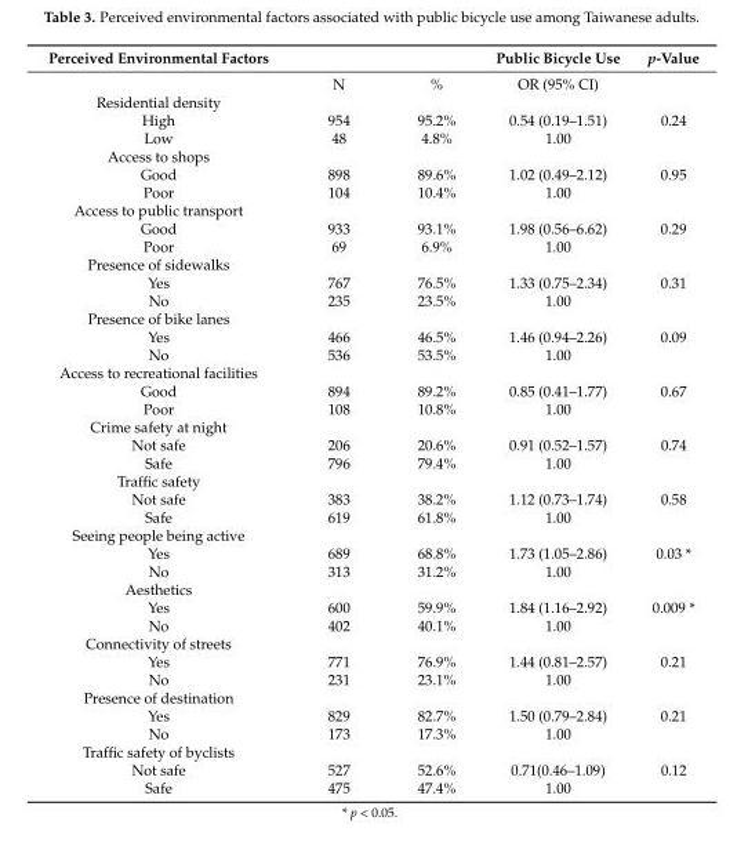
<table><thead><tr><td>Perceived Environmental Factors</td><td></td><td></td><td>Public Bicycle Use</td><td>p-Value</td></tr></thead><tbody><tr><td></td><td>N</td><td>%</td><td>OR (95% CI)</td><td></td></tr><tr><td colspan="5">Residential density</td></tr><tr><td>High</td><td>954</td><td>95.2%</td><td>0.54 (0.19–1.51)</td><td>0.24</td></tr><tr><td>Low</td><td>48</td><td>4.8%</td><td>1.00</td><td></td></tr><tr><td colspan="5">Access to shops</td></tr><tr><td>Good</td><td>898</td><td>89.6%</td><td>1.02 (0.49–2.12)</td><td>0.95</td></tr><tr><td>Poor</td><td>104</td><td>10.4%</td><td>1.00</td><td></td></tr><tr><td colspan="5">Access to public transport</td></tr><tr><td>Good</td><td>933</td><td>93.1%</td><td>1.98 (0.56–6.62)</td><td>0.29</td></tr><tr><td>Poor</td><td>69</td><td>6.9%</td><td>1.00</td><td></td></tr><tr><td colspan="5">Presence of sidewalks</td></tr><tr><td>Yes</td><td>767</td><td>76.5%</td><td>1.33 (0.75–2.34)</td><td>0.31</td></tr><tr><td>No</td><td>235</td><td>23.5%</td><td>1.00</td><td></td></tr><tr><td colspan="5">Presence of bike lanes</td></tr><tr><td>Yes</td><td>466</td><td>46.5%</td><td>1.46 (0.94–2.26)</td><td>0.09</td></tr><tr><td>No</td><td>536</td><td>53.5%</td><td>1.00</td><td></td></tr><tr><td colspan="5">Access to recreational facilities</td></tr><tr><td>Good</td><td>894</td><td>89.2%</td><td>0.85 (0.41–1.77)</td><td>0.67</td></tr><tr><td>Poor</td><td>108</td><td>10.8%</td><td>1.00</td><td></td></tr><tr><td colspan="5">Crime safety at night</td></tr><tr><td>Not safe</td><td>206</td><td>20.6%</td><td>0.91 (0.52–1.57)</td><td>0.74</td></tr><tr><td>Safe</td><td>796</td><td>79.4%</td><td>1.00</td><td></td></tr><tr><td colspan="5">Traffic safety</td></tr><tr><td>Not safe</td><td>383</td><td>38.2%</td><td>1.12 (0.73–1.74)</td><td>0.58</td></tr><tr><td>Safe</td><td>619</td><td>61.8%</td><td>1.00</td><td></td></tr><tr><td colspan="5">Seeing people being active</td></tr><tr><td>Yes</td><td>689</td><td>68.8%</td><td>1.73 (1.05–2.86)</td><td>0.03 *</td></tr><tr><td>No</td><td>313</td><td>31.2%</td><td>1.00</td><td></td></tr><tr><td colspan="5">Aesthetics</td></tr><tr><td>Yes</td><td>600</td><td>59.9%</td><td>1.84 (1.16–2.92)</td><td>0.009 *</td></tr><tr><td>No</td><td>402</td><td>40.1%</td><td>1.00</td><td></td></tr><tr><td colspan="5">Connectivity of streets</td></tr><tr><td>Yes</td><td>771</td><td>76.9%</td><td>1.44 (0.81–2.57)</td><td>0.21</td></tr><tr><td>No</td><td>231</td><td>23.1%</td><td>1.00</td><td></td></tr><tr><td colspan="5">Presence of destination</td></tr><tr><td>Yes</td><td>829</td><td>82.7%</td><td>1.50 (0.79–2.84)</td><td>0.21</td></tr><tr><td>No</td><td>173</td><td>17.3%</td><td>1.00</td><td></td></tr><tr><td colspan="5">Traffic safety of byclists</td></tr><tr><td>Not safe</td><td>527</td><td>52.6%</td><td>0.71(0.46–1.09)</td><td>0.12</td></tr><tr><td>Safe</td><td>475</td><td>47.4%</td><td>1.00</td><td></td></tr></tbody></table>